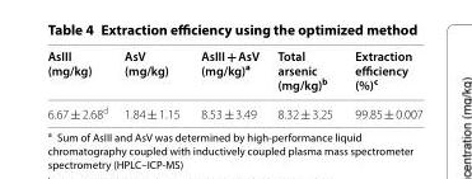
<table><thead><tr><td>AsIII (mg/kg)</td><td>AsV (mg/kg)</td><td>AsIII + AsV (mg/kg)<sup>a</sup></td><td>Total arsenic (mg/kg)<sup>b</sup></td><td>Extraction efficiency (%)<sup>c</sup></td></tr></thead><tbody><tr><td>6.67 ± 2.68<sup>d</sup></td><td>1.84 ± 1.15</td><td>8.53 ± 3.49</td><td>8.32 ± 3.25</td><td>99.85 ± 0.007</td></tr></tbody></table>